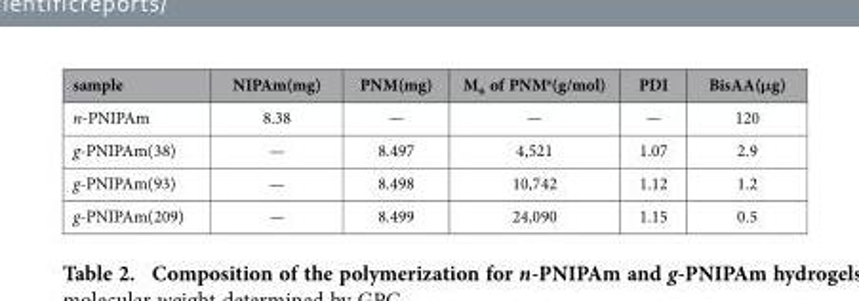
<table><thead><tr><td>sample</td><td>NIPAm(mg)</td><td>PNM(mg)</td><td>M<sub>n</sub> of PNM<sup>a</sup>(g/mol)</td><td>PDI</td><td>BisAA(μg)</td></tr></thead><tbody><tr><td>n-PNIPAm</td><td>8.38</td><td>—</td><td>—</td><td>—</td><td>120</td></tr><tr><td>g-PNIPAm(38)</td><td>—</td><td>8.497</td><td>4,521</td><td>1.07</td><td>2.9</td></tr><tr><td>g-PNIPAm(93)</td><td>—</td><td>8.498</td><td>10,742</td><td>1.12</td><td>1.2</td></tr><tr><td>g-PNIPAm(209)</td><td>—</td><td>8.499</td><td>24,090</td><td>1.15</td><td>0.5</td></tr></tbody></table>